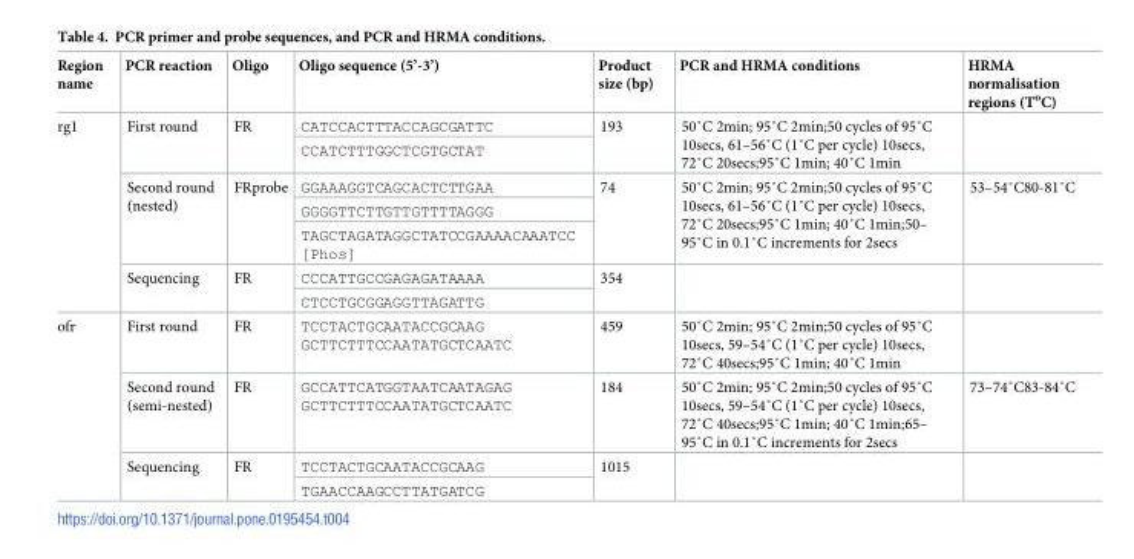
<table><thead><tr><td>Region name</td><td>PCR reaction</td><td>Oligo</td><td>Oligo sequence (5’-3’)</td><td>Product size (bp)</td><td>PCR and HRMA conditions</td><td>HRMA normalisation regions (T<sup>o</sup>C)</td></tr></thead><tbody><tr><td rowspan="7">rg1</td><td rowspan="2">First round</td><td rowspan="2">FR</td><td>CATCCACTTTACCAGCGATTC</td><td rowspan="2">193</td><td rowspan="2">50˚C 2min; 95˚C 2min;50 cycles of 95˚C 10secs, 61–56˚C (1˚C per cycle) 10secs, 72˚C 20secs;95˚C 1min; 40˚C 1min</td><td rowspan="2"></td></tr><tr><td>CCATCTTTGGCTCGTGCTAT</td></tr><tr><td rowspan="3">Second round (nested)</td><td rowspan="3">FRprobe</td><td>GGAAAGGTCAGCACTCTTGAA</td><td rowspan="3">74</td><td rowspan="3">50˚C 2min; 95˚C 2min;50 cycles of 95˚C 10secs, 61–56˚C (1˚C per cycle) 10secs, 72˚C 20secs;95˚C 1min; 40˚C 1min;50– 95˚C in 0.1˚C increments for 2secs</td><td rowspan="3">53–54˚C80-81˚C</td></tr><tr><td>GGGGTTCTTGTTGTTTTAGGG</td></tr><tr><td>TAGCTAGATAGGCTATCCGAAAACAAATCC [Phos]</td></tr><tr><td rowspan="2">Sequencing</td><td rowspan="2">FR</td><td>CCCATTGCCGAGAGATAAAA</td><td rowspan="2">354</td><td rowspan="2"></td><td rowspan="2"></td></tr><tr><td>CTCCTGCGGAGGTTAGATTG</td></tr><tr><td rowspan="4">ofr</td><td>First round</td><td>FR</td><td>TCCTACTGCAATACCGCAAG GCTTCTTTCCAATATGCTCAATC</td><td>459</td><td>50˚C 2min; 95˚C 2min;50 cycles of 95˚C 10secs, 59–54˚C (1˚C per cycle) 10secs, 72˚C 40secs;95˚C 1min; 40˚C 1min</td><td></td></tr><tr><td>Second round (semi-nested)</td><td>FR</td><td>GCCATTCATGGTAATCAATAGAG GCTTCTTTCCAATATGCTCAATC</td><td>184</td><td>50˚C 2min; 95˚C 2min;50 cycles of 95˚C 10secs, 59–54˚C (1˚C per cycle) 10secs, 72˚C 40secs;95˚C 1min; 40˚C 1min;65– 95˚C in 0.1˚C increments for 2secs</td><td>73–74˚C83-84˚C</td></tr><tr><td rowspan="2">Sequencing</td><td rowspan="2">FR</td><td>TCCTACTGCAATACCGCAAG</td><td rowspan="2">1015</td><td rowspan="2"></td><td rowspan="2"></td></tr><tr><td>TGAACCAAGCCTTATGATCG</td></tr></tbody></table>